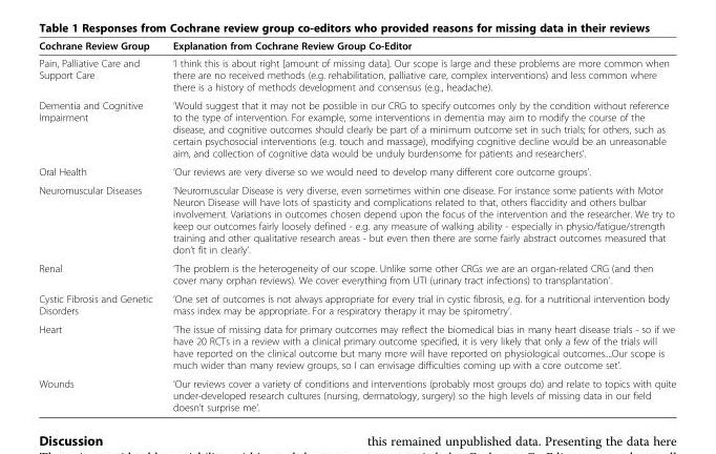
<table><thead><tr><td>Cochrane Review Group</td><td>Explanation from Cochrane Review Group Co-Editor</td></tr></thead><tbody><tr><td>Pain, Palliative Care and Support Care</td><td>‘I think this is about right [amount of missing data]. Our scope is large and these problems are more common when there are no received methods (e.g. rehabilitation, palliative care, complex interventions) and less common where there is a history of methods development and consensus (e.g., headache).</td></tr><tr><td>Dementia and Cognitive Impairment</td><td>‘Would suggest that it may not be possible in our CRG to specify outcomes only by the condition without reference to the type of intervention. For example, some interventions in dementia may aim to modify the course of the disease, and cognitive outcomes should clearly be part of a minimum outcome set in such trials; for others, such as certain psychosocial interventions (e.g. touch and massage), modifying cognitive decline would be an unreasonable aim, and collection of cognitive data would be unduly burdensome for patients and researchers’.</td></tr><tr><td>Oral Health</td><td>‘Our reviews are very diverse so we would need to develop many different core outcome groups’.</td></tr><tr><td>Neuromuscular Diseases</td><td>‘Neuromuscular Disease is very diverse, even sometimes within one disease. For instance some patients with Motor Neuron Disease will have lots of spasticity and complications related to that, others flaccidity and others bulbar involvement. Variations in outcomes chosen depend upon the focus of the intervention and the researcher. We try to keep our outcomes fairly loosely defined - e.g. any measure of walking ability - especially in physio/fatigue/strength training and other qualitative research areas - but even then there are some fairly abstract outcomes measured that don’t fit in clearly’.</td></tr><tr><td>Renal</td><td>‘The problem is the heterogeneity of our scope. Unlike some other CRGs we are an organ-related CRG (and then cover many orphan reviews). We cover everything from UTI (urinary tract infections) to transplantation’.</td></tr><tr><td>Cystic Fibrosis and Genetic Disorders</td><td>‘One set of outcomes is not always appropriate for every trial in cystic fibrosis, e.g. for a nutritional intervention body mass index may be appropriate. For a respiratory therapy it may be spirometry’.</td></tr><tr><td>Heart</td><td>‘The issue of missing data for primary outcomes may reflect the biomedical bias in many heart disease trials - so if we have 20 RCTs in a review with a clinical primary outcome specified, it is very likely that only a few of the trials will have reported on the clinical outcome but many more will have reported on physiological outcomes....Our scope is much wider than many review groups, so I can envisage difficulties coming up with a core outcome set’.</td></tr><tr><td>Wounds</td><td>‘Our reviews cover a variety of conditions and interventions (probably most groups do) and relate to topics with quite under-developed research cultures (nursing, dermatology, surgery) so the high levels of missing data in our field doesn’t surprise me’.</td></tr></tbody></table>